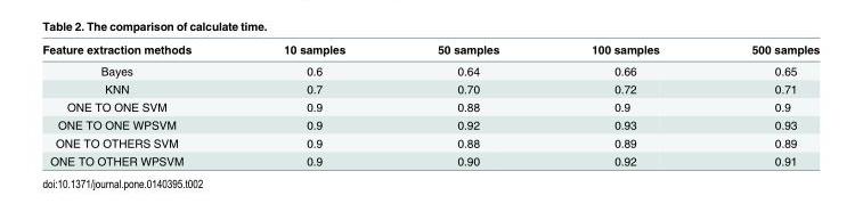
<table><thead><tr><td>Feature extraction methods</td><td>10 samples</td><td>50 samples</td><td>100 samples</td><td>500 samples</td></tr></thead><tbody><tr><td>Bayes</td><td>0.6</td><td>0.64</td><td>0.66</td><td>0.65</td></tr><tr><td>KNN</td><td>0.7</td><td>0.70</td><td>0.72</td><td>0.71</td></tr><tr><td>ONE TO ONE SVM</td><td>0.9</td><td>0.88</td><td>0.9</td><td>0.9</td></tr><tr><td>ONE TO ONE WPSVM</td><td>0.9</td><td>0.92</td><td>0.93</td><td>0.93</td></tr><tr><td>ONE TO OTHERS SVM</td><td>0.9</td><td>0.88</td><td>0.89</td><td>0.89</td></tr><tr><td>ONE TO OTHER WPSVM</td><td>0.9</td><td>0.90</td><td>0.92</td><td>0.91</td></tr></tbody></table>